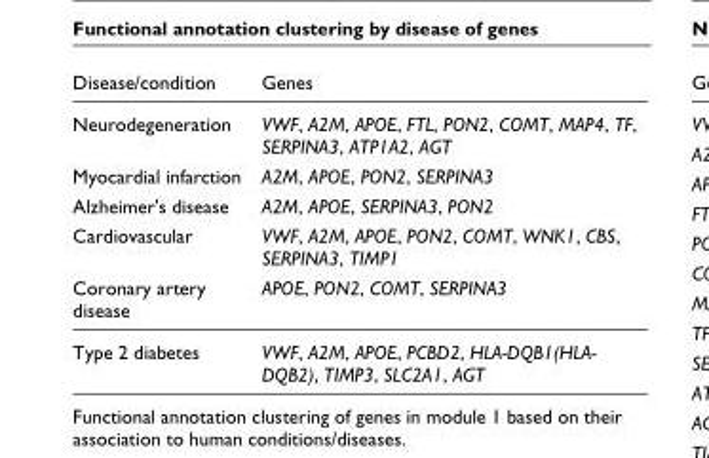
<table><thead><tr><td>Disease/condition</td><td>Genes</td></tr></thead><tbody><tr><td>Neurodegeneration</td><td>VWF, A2M, APOE, FTL, PON2, COMT, MAP4, TF, SERPINA3, ATP1A2, AGT</td></tr><tr><td>Myocardial infarction</td><td>A2M, APOE, PON2, SERPINA3</td></tr><tr><td>Alzheimer&#x27;s disease</td><td>A2M, APOE, SERPINA3, PON2</td></tr><tr><td>Cardiovascular</td><td>VWF, A2M, APOE, PON2, COMT, WNK1, CBS, SERPINA3, TIMP1</td></tr><tr><td>Coronary artery disease</td><td>APOE, PON2, COMT, SERPINA3</td></tr><tr><td>Type 2 diabetes</td><td>VWF, A2M, APOE, PCBD2, HLA-DQB1(HLA- DQB2), TIMP3, SLC2A1, AGT</td></tr></tbody></table>